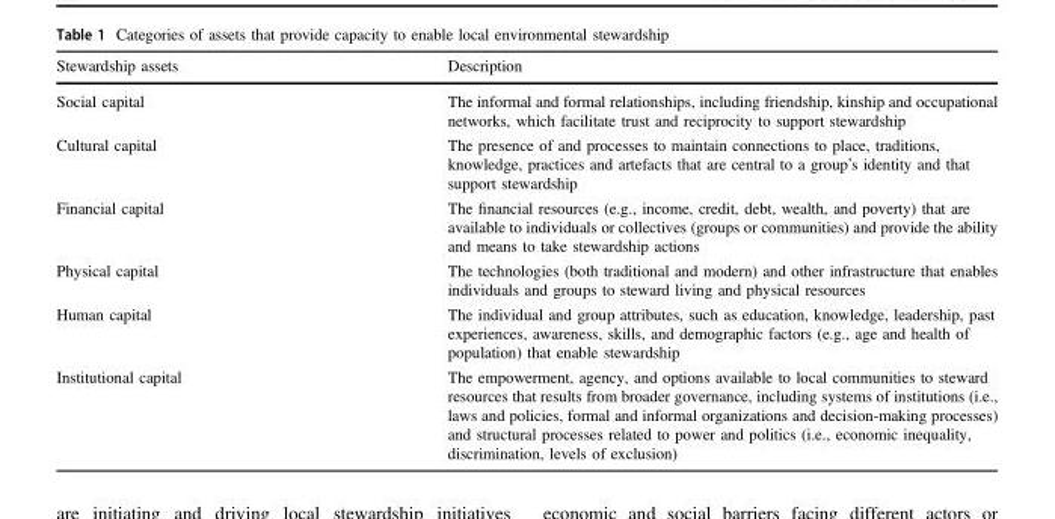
<table><thead><tr><td>Stewardship assets</td><td>Description</td></tr></thead><tbody><tr><td>Social capital</td><td>The informal and formal relationships, including friendship, kinship and occupational networks, which facilitate trust and reciprocity to support stewardship</td></tr><tr><td>Cultural capital</td><td>The presence of and processes to maintain connections to place, traditions, knowledge, practices and artefacts that are central to a group’s identity and that support stewardship</td></tr><tr><td>Financial capital</td><td>The financial resources (e.g., income, credit, debt, wealth, and poverty) that are available to individuals or collectives (groups or communities) and provide the ability and means to take stewardship actions</td></tr><tr><td>Physical capital</td><td>The technologies (both traditional and modern) and other infrastructure that enables individuals and groups to steward living and physical resources</td></tr><tr><td>Human capital</td><td>The individual and group attributes, such as education, knowledge, leadership, past experiences, awareness, skills, and demographic factors (e.g., age and health of population) that enable stewardship</td></tr><tr><td>Institutional capital</td><td>The empowerment, agency, and options available to local communities to steward resources that results from broader governance, including systems of institutions (i.e., laws and policies, formal and informal organizations and decision-making processes) and structural processes related to power and politics (i.e., economic inequality, discrimination, levels of exclusion)</td></tr></tbody></table>